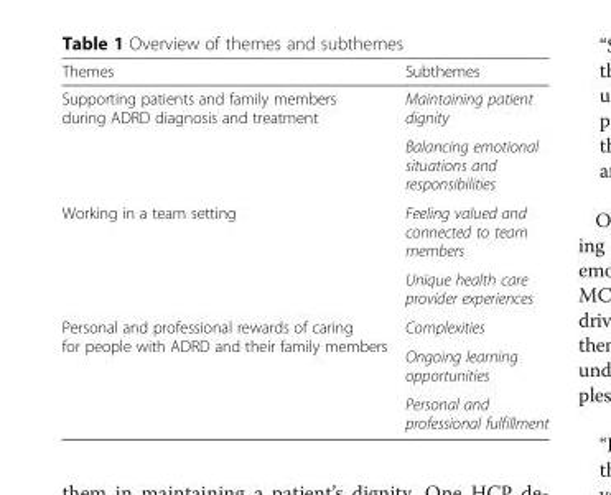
<table><thead><tr><td>Themes</td><td>Subthemes</td></tr></thead><tbody><tr><td rowspan="2">Supporting patients and family members during ADRD diagnosis and treatment</td><td>Maintaining patient dignity</td></tr><tr><td>Balancing emotional situations and responsibilities</td></tr><tr><td rowspan="2">Working in a team setting</td><td>Feeling valued and connected to team members</td></tr><tr><td>Unique health care provider experiences</td></tr><tr><td rowspan="3">Personal and professional rewards of caring for people with ADRD and their family members</td><td>Complexities</td></tr><tr><td>Ongoing learning opportunities</td></tr><tr><td>Personal and professional fulfillment</td></tr></tbody></table>